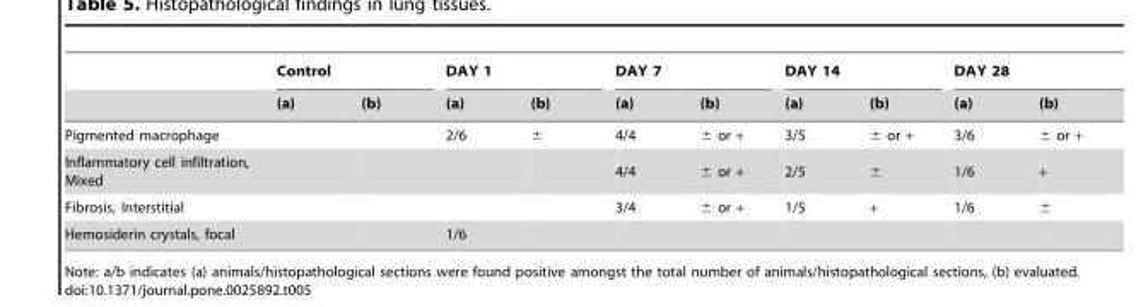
<table><thead><tr><td rowspan="2"></td><td colspan="2">Control</td><td colspan="2">DAY 1</td><td colspan="2">DAY 7</td><td colspan="2">DAY 14</td><td colspan="2">DAY 28</td></tr><tr><td>(a)</td><td>(b)</td><td>(a)</td><td>(b)</td><td>(a)</td><td>(b)</td><td>(a)</td><td>(b)</td><td>(a)</td><td>(b)</td></tr></thead><tbody><tr><td>Pigmented macrophage</td><td></td><td></td><td>2/6</td><td>±</td><td>4/4</td><td>± or +</td><td>3/5</td><td>± or +</td><td>3/6</td><td>± or +</td></tr><tr><td>Inflammatory cell infiltration, Mixed</td><td></td><td></td><td></td><td></td><td>4/4</td><td>± or +</td><td>2/5</td><td>±</td><td>1/6</td><td>+</td></tr><tr><td>Fibrosis, Interstitial</td><td></td><td></td><td></td><td></td><td>3/4</td><td>± or +</td><td>1/5</td><td>+</td><td>1/6</td><td>±</td></tr><tr><td>Hemosiderin crystals, focal</td><td></td><td></td><td>1/6</td><td></td><td></td><td></td><td></td><td></td><td></td><td></td></tr></tbody></table>